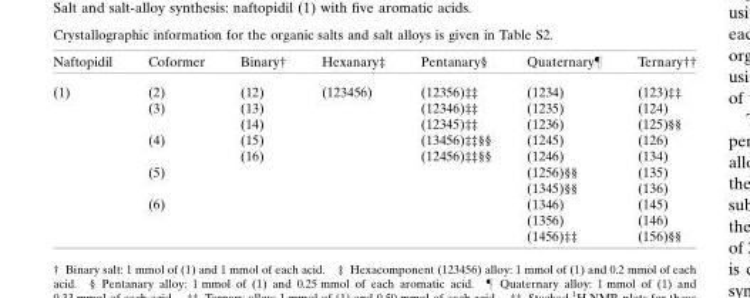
<table><thead><tr><td>Naftopidil</td><td>Coformer</td><td>Binary†</td><td>Hexanary‡</td><td>Pentanary§</td><td>Quaternary¶</td><td>Ternary††</td></tr></thead><tbody><tr><td rowspan="10">(1)</td><td>(2)</td><td>(12)</td><td>(123456)</td><td>(12356)‡‡</td><td>(1234)</td><td>(123)‡‡</td></tr><tr><td>(3)</td><td>(13)</td><td></td><td>(12346)‡‡</td><td>(1235)</td><td>(124)</td></tr><tr><td></td><td>(14)</td><td></td><td>(12345)‡‡</td><td>(1236)</td><td>(125)§§</td></tr><tr><td>(4)</td><td>(15)</td><td></td><td>(13456)‡‡§§</td><td>(1245)</td><td>(126)</td></tr><tr><td></td><td>(16)</td><td></td><td>(12456)‡‡§§</td><td>(1246)</td><td>(134)</td></tr><tr><td>(5)</td><td></td><td></td><td></td><td>(1256)§§</td><td>(135)</td></tr><tr><td></td><td></td><td></td><td></td><td>(1345)§§</td><td>(136)</td></tr><tr><td>(6)</td><td></td><td></td><td></td><td>(1346)</td><td>(145)</td></tr><tr><td></td><td></td><td></td><td></td><td>(1356)</td><td>(146)</td></tr><tr><td></td><td></td><td></td><td></td><td>(1456)‡‡</td><td>(156)§§</td></tr></tbody></table>